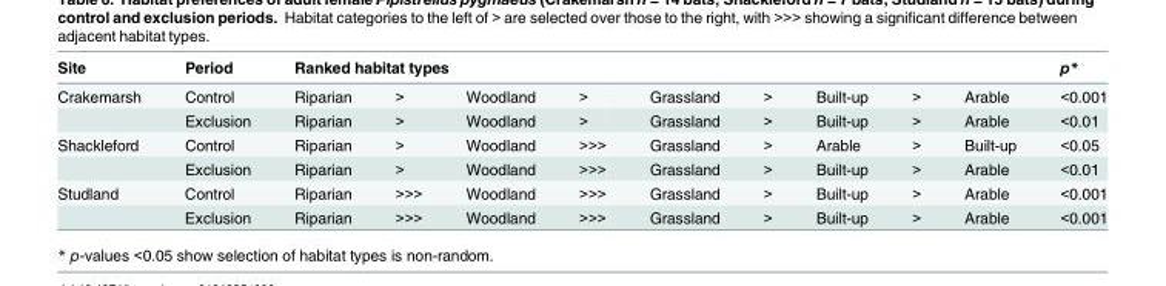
<table><thead><tr><td rowspan="2">Site Crakemarsh</td><td rowspan="2">Period Control</td><td colspan="3">Ranked habitat types</td><td rowspan="2">&gt;</td><td rowspan="2">Grassland</td><td rowspan="2">&gt;</td><td rowspan="2">Built-up</td><td rowspan="2">&gt;</td><td rowspan="2">Arable</td><td rowspan="2">p* &lt;0.001</td></tr><tr><td>Riparian</td><td>&gt;</td><td>Woodland</td></tr></thead><tbody><tr><td></td><td>Exclusion</td><td>Riparian</td><td>&gt;</td><td>Woodland</td><td>&gt;</td><td>Grassland</td><td>&gt;</td><td>Built-up</td><td>&gt;</td><td>Arable</td><td>&lt;0.01</td></tr><tr><td rowspan="2">Shackleford</td><td>Control</td><td>Riparian</td><td>&gt;</td><td>Woodland</td><td>&gt;&gt;&gt;</td><td>Grassland</td><td>&gt;</td><td>Arable</td><td>&gt;</td><td>Built-up</td><td>&lt;0.05</td></tr><tr><td>Exclusion</td><td>Riparian</td><td>&gt;</td><td>Woodland</td><td>&gt;&gt;&gt;</td><td>Grassland</td><td>&gt;</td><td>Built-up</td><td>&gt;</td><td>Arable</td><td>&lt;0.01</td></tr><tr><td rowspan="2">Studland</td><td>Control</td><td>Riparian</td><td>&gt;&gt;&gt;</td><td>Woodland</td><td>&gt;&gt;&gt;</td><td>Grassland</td><td>&gt;</td><td>Built-up</td><td>&gt;</td><td>Arable</td><td>&lt;0.001</td></tr><tr><td>Exclusion</td><td>Riparian</td><td>&gt;&gt;&gt;</td><td>Woodland</td><td>&gt;&gt;&gt;</td><td>Grassland</td><td>&gt;</td><td>Built-up</td><td>&gt;</td><td>Arable</td><td>&lt;0.001</td></tr></tbody></table>